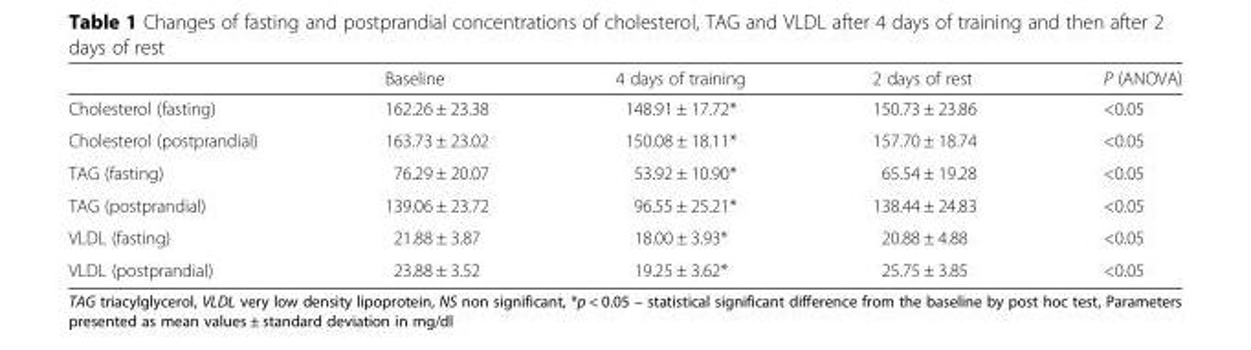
<table><thead><tr><td></td><td>Baseline</td><td>4 days of training</td><td>2 days of rest</td><td>P (ANOVA)</td></tr></thead><tbody><tr><td>Cholesterol (fasting)</td><td>162.26 ± 23.38</td><td>148.91 ± 17.72*</td><td>150.73 ± 23.86</td><td>&lt;0.05</td></tr><tr><td>Cholesterol (postprandial)</td><td>163.73 ± 23.02</td><td>150.08 ± 18.11*</td><td>157.70 ± 18.74</td><td>&lt;0.05</td></tr><tr><td>TAG (fasting)</td><td>76.29 ± 20.07</td><td>53.92 ± 10.90*</td><td>65.54 ± 19.28</td><td>&lt;0.05</td></tr><tr><td>TAG (postprandial)</td><td>139.06 ± 23.72</td><td>96.55 ± 25.21*</td><td>138.44 ± 24.83</td><td>&lt;0.05</td></tr><tr><td>VLDL (fasting)</td><td>21.88 ± 3.87</td><td>18.00 ± 3.93*</td><td>20.88 ± 4.88</td><td>&lt;0.05</td></tr><tr><td>VLDL (postprandial)</td><td>23.88 ± 3.52</td><td>19.25 ± 3.62*</td><td>25.75 ± 3.85</td><td>&lt;0.05</td></tr></tbody></table>